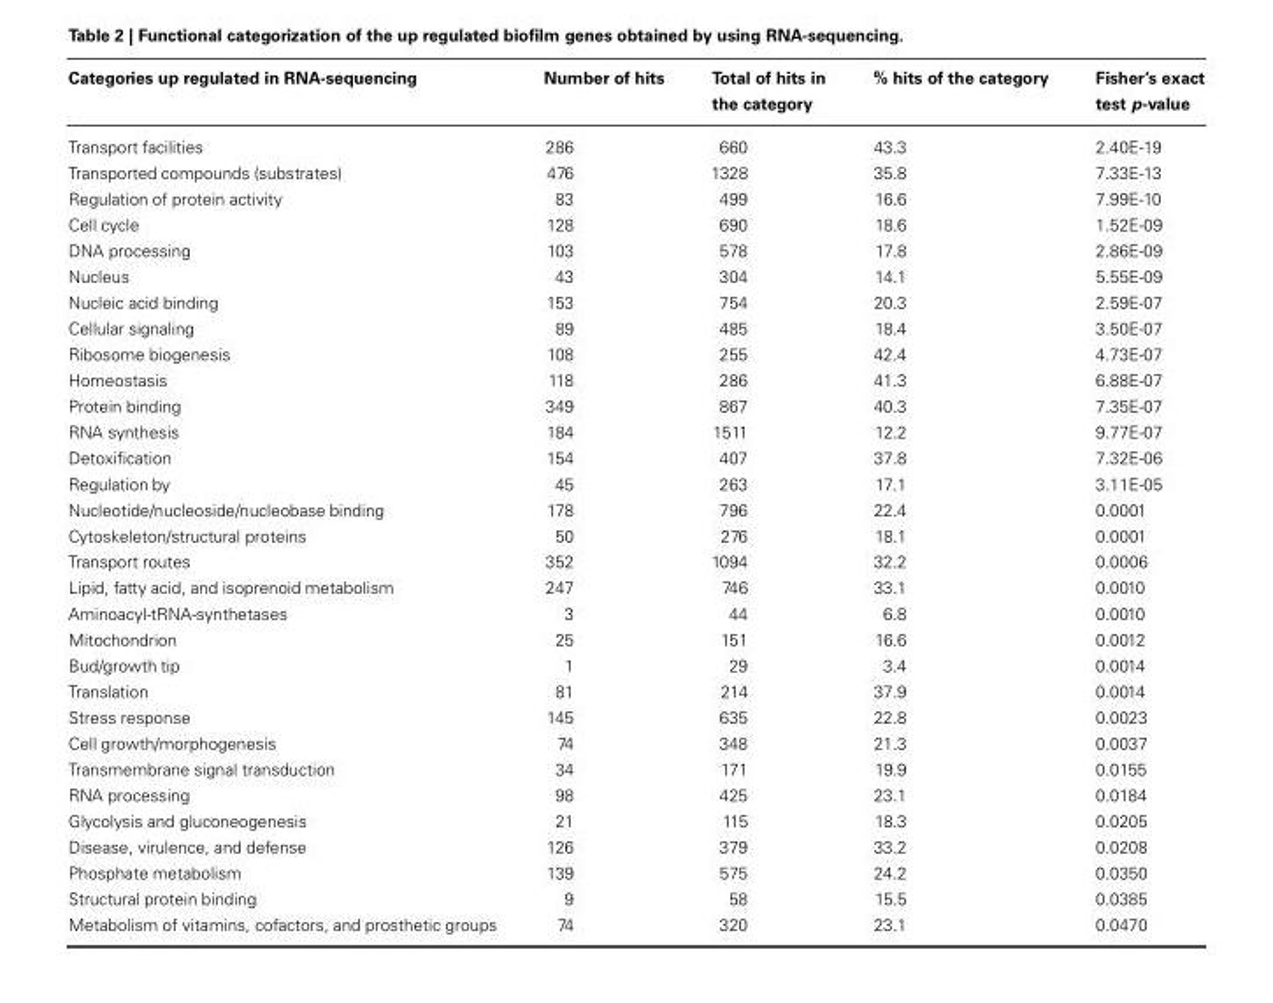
<table><thead><tr><td>Categories up regulated in RNA-sequencing</td><td>Number of hits</td><td>Total of hits in the category</td><td>% hits of the category</td><td>Fisher’s exact test p-value</td></tr></thead><tbody><tr><td>Transport facilities</td><td>286</td><td>660</td><td>43.3</td><td>2.40E-19</td></tr><tr><td>Transported compounds (substrates)</td><td>476</td><td>1328</td><td>35.8</td><td>7.33E-13</td></tr><tr><td>Regulation of protein activity</td><td>83</td><td>499</td><td>16.6</td><td>7.99E-10</td></tr><tr><td>Cell cycle</td><td>128</td><td>690</td><td>18.6</td><td>1.52E-09</td></tr><tr><td>DNA processing</td><td>103</td><td>578</td><td>17.8</td><td>2.86E-09</td></tr><tr><td>Nucleus</td><td>43</td><td>304</td><td>14.1</td><td>5.55E-09</td></tr><tr><td>Nucleic acid binding</td><td>153</td><td>754</td><td>20.3</td><td>2.59E-07</td></tr><tr><td>Cellular signaling</td><td>89</td><td>485</td><td>18.4</td><td>3.50E-07</td></tr><tr><td>Ribosome biogenesis</td><td>108</td><td>255</td><td>42.4</td><td>4.73E-07</td></tr><tr><td>Homeostasis</td><td>118</td><td>286</td><td>41.3</td><td>6.88E-07</td></tr><tr><td>Protein binding</td><td>349</td><td>867</td><td>40.3</td><td>7.35E-07</td></tr><tr><td>RNA synthesis</td><td>184</td><td>1511</td><td>12.2</td><td>9.77E-07</td></tr><tr><td>Detoxification</td><td>154</td><td>407</td><td>37.8</td><td>7.32E-06</td></tr><tr><td>Regulation by</td><td>45</td><td>263</td><td>17.1</td><td>3.11E-05</td></tr><tr><td>Nucleotide/nucleoside/nucleobase binding</td><td>178</td><td>796</td><td>22.4</td><td>0.0001</td></tr><tr><td>Cytoskeleton/structural proteins</td><td>50</td><td>276</td><td>18.1</td><td>0.0001</td></tr><tr><td>Transport routes</td><td>352</td><td>1094</td><td>32.2</td><td>0.0006</td></tr><tr><td>Lipid, fatty acid, and isoprenoid metabolism</td><td>247</td><td>746</td><td>33.1</td><td>0.0010</td></tr><tr><td>Aminoacyl-tRNA-synthetases</td><td>3</td><td>44</td><td>6.8</td><td>0.0010</td></tr><tr><td>Mitochondrion</td><td>25</td><td>151</td><td>16.6</td><td>0.0012</td></tr><tr><td>Bud/growth tip</td><td>1</td><td>29</td><td>3.4</td><td>0.0014</td></tr><tr><td>Translation</td><td>81</td><td>214</td><td>37.9</td><td>0.0014</td></tr><tr><td>Stress response</td><td>145</td><td>635</td><td>22.8</td><td>0.0023</td></tr><tr><td>Cell growth/morphogenesis</td><td>74</td><td>348</td><td>21.3</td><td>0.0037</td></tr><tr><td>Transmembrane signal transduction</td><td>34</td><td>171</td><td>19.9</td><td>0.0155</td></tr><tr><td>RNA processing</td><td>98</td><td>425</td><td>23.1</td><td>0.0184</td></tr><tr><td>Glycolysis and gluconeogenesis</td><td>21</td><td>115</td><td>18.3</td><td>0.0205</td></tr><tr><td>Disease, virulence, and defense</td><td>126</td><td>379</td><td>33.2</td><td>0.0208</td></tr><tr><td>Phosphate metabolism</td><td>139</td><td>575</td><td>24.2</td><td>0.0350</td></tr><tr><td>Structural protein binding</td><td>9</td><td>58</td><td>15.5</td><td>0.0385</td></tr><tr><td>Metabolism of vitamins, cofactors, and prosthetic groups</td><td>74</td><td>320</td><td>23.1</td><td>0.0470</td></tr></tbody></table>